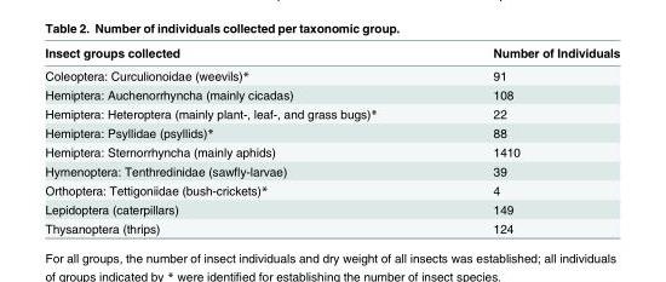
<table><thead><tr><td>Insect groups collected</td><td>Number of Individuals</td></tr></thead><tbody><tr><td>Coleoptera: Curculionoidae (weevils)*</td><td>91</td></tr><tr><td>Hemiptera: Auchenorrhyncha (mainly cicadas)</td><td>108</td></tr><tr><td>Hemiptera: Heteroptera (mainly plant-, leaf-, and grass bugs)*</td><td>22</td></tr><tr><td>Hemiptera: Psyllidae (psyllids)*</td><td>88</td></tr><tr><td>Hemiptera: Sternorrhyncha (mainly aphids)</td><td>1410</td></tr><tr><td>Hymenoptera: Tenthredinidae (sawfly-larvae)</td><td>39</td></tr><tr><td>Orthoptera: Tettigoniidae (bush-crickets)*</td><td>4</td></tr><tr><td>Lepidoptera (caterpillars)</td><td>149</td></tr><tr><td>Thysanoptera (thrips)</td><td>124</td></tr></tbody></table>